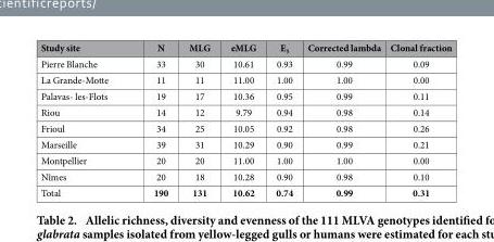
<table><thead><tr><td>Study site</td><td>N</td><td>MLG</td><td>eMLG</td><td>E<sub>5</sub></td><td>Corrected lambda</td><td>Clonal fraction</td></tr></thead><tbody><tr><td>Pierre Blanche</td><td>33</td><td>30</td><td>10.61</td><td>0.93</td><td>0.99</td><td>0.09</td></tr><tr><td>La Grande-Motte</td><td>11</td><td>11</td><td>11.00</td><td>1.00</td><td>1.00</td><td>0.00</td></tr><tr><td>Palavas- les-Flots</td><td>19</td><td>17</td><td>10.36</td><td>0.95</td><td>0.99</td><td>0.11</td></tr><tr><td>Riou</td><td>14</td><td>12</td><td>9.79</td><td>0.94</td><td>0.98</td><td>0.14</td></tr><tr><td>Frioul</td><td>34</td><td>25</td><td>10.05</td><td>0.92</td><td>0.98</td><td>0.26</td></tr><tr><td>Marseille</td><td>39</td><td>31</td><td>10.29</td><td>0.90</td><td>0.99</td><td>0.21</td></tr><tr><td>Montpellier</td><td>20</td><td>20</td><td>11.00</td><td>1.00</td><td>1.00</td><td>0.00</td></tr><tr><td>Nîmes</td><td>20</td><td>18</td><td>10.28</td><td>0.90</td><td>0.98</td><td>0.10</td></tr><tr><td>Total</td><td>190</td><td>131</td><td>10.62</td><td>0.74</td><td>0.99</td><td>0.31</td></tr></tbody></table>